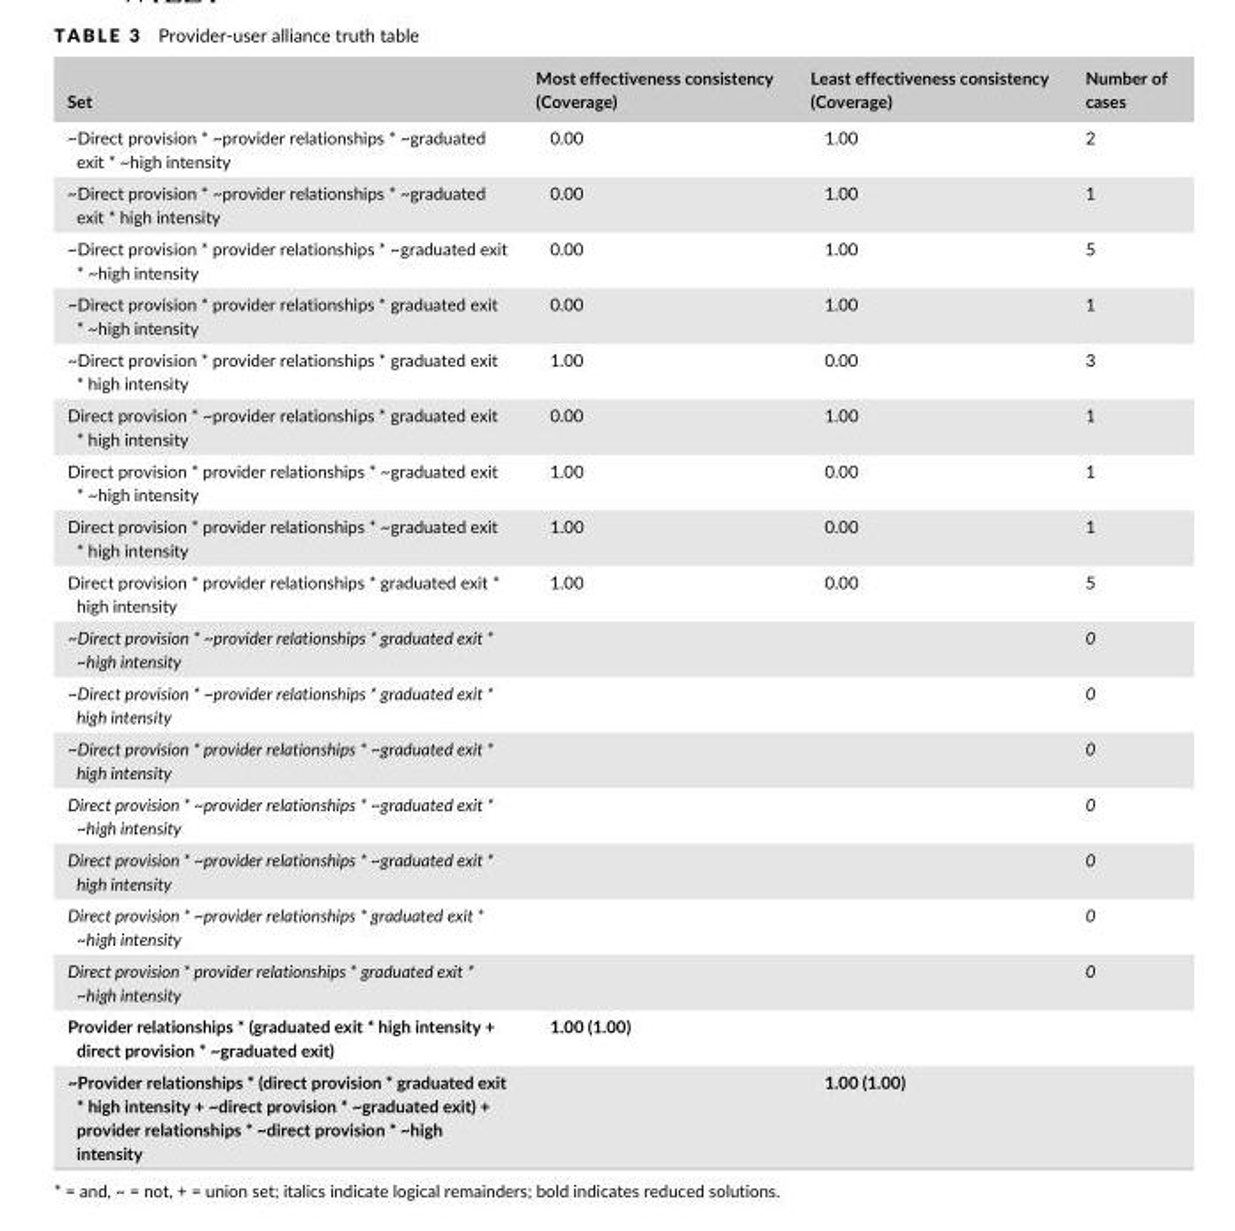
<table><thead><tr><td>Set</td><td>Most effectiveness consistency (Coverage)</td><td>Least effectiveness consistency (Coverage)</td><td>Number of cases</td></tr></thead><tbody><tr><td>~Direct provision * ~provider relationships * ~graduated exit * ~high intensity</td><td>0.00</td><td>1.00</td><td>2</td></tr><tr><td>~Direct provision * ~provider relationships * ~graduated exit * high intensity</td><td>0.00</td><td>1.00</td><td>1</td></tr><tr><td>~Direct provision * provider relationships * ~graduated exit * ~high intensity</td><td>0.00</td><td>1.00</td><td>5</td></tr><tr><td>~Direct provision * provider relationships * graduated exit * ~high intensity</td><td>0.00</td><td>1.00</td><td>1</td></tr><tr><td>~Direct provision * provider relationships * graduated exit * high intensity</td><td>1.00</td><td>0.00</td><td>3</td></tr><tr><td>Direct provision * ~provider relationships * graduated exit * high intensity</td><td>0.00</td><td>1.00</td><td>1</td></tr><tr><td>Direct provision * provider relationships * ~graduated exit * ~high intensity</td><td>1.00</td><td>0.00</td><td>1</td></tr><tr><td>Direct provision * provider relationships * ~graduated exit * high intensity</td><td>1.00</td><td>0.00</td><td>1</td></tr><tr><td>Direct provision * provider relationships * graduated exit * high intensity</td><td>1.00</td><td>0.00</td><td>5</td></tr><tr><td>~Direct provision * ~provider relationships * graduated exit * ~high intensity</td><td></td><td></td><td>0</td></tr><tr><td>~Direct provision * ~provider relationships * graduated exit * high intensity</td><td></td><td></td><td>0</td></tr><tr><td>~Direct provision * provider relationships * ~graduated exit * high intensity</td><td></td><td></td><td>0</td></tr><tr><td>Direct provision * ~provider relationships * ~graduated exit * ~high intensity</td><td></td><td></td><td>0</td></tr><tr><td>Direct provision * ~provider relationships * ~graduated exit * high intensity</td><td></td><td></td><td>0</td></tr><tr><td>Direct provision * ~provider relationships * graduated exit * ~high intensity</td><td></td><td></td><td>0</td></tr><tr><td>Direct provision * provider relationships * graduated exit * ~high intensity</td><td></td><td></td><td>0</td></tr><tr><td>Provider relationships * (graduated exit * high intensity + direct provision * ~graduated exit)</td><td>1.00 (1.00)</td><td></td><td></td></tr><tr><td>~Provider relationships * (direct provision * graduated exit * high intensity + ~direct provision * ~graduated exit) + provider relationships * ~direct provision * ~high intensity</td><td></td><td>1.00 (1.00)</td><td></td></tr></tbody></table>